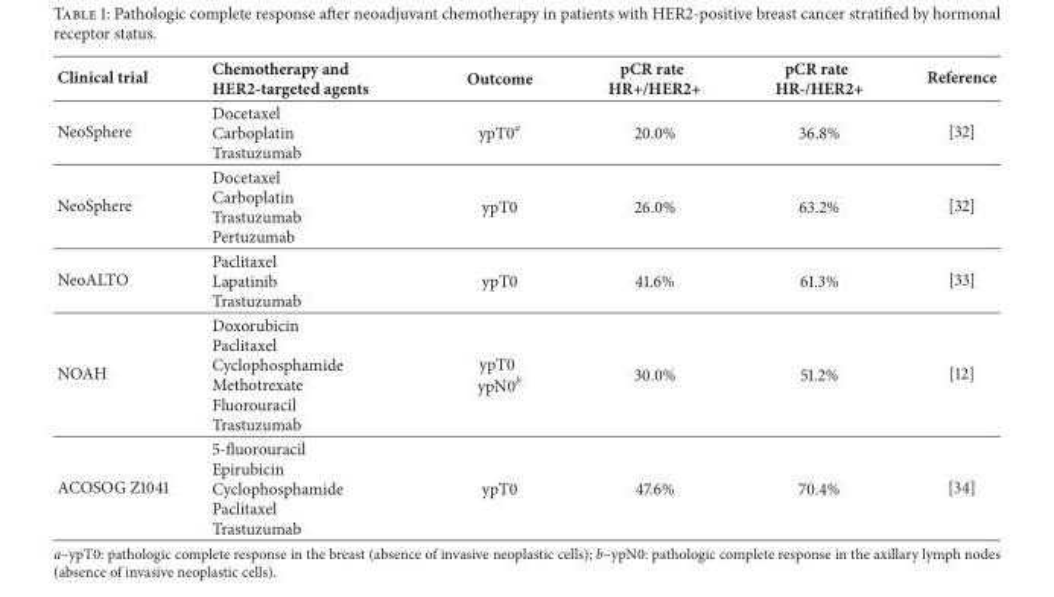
<table><thead><tr><td>Clinical trial</td><td>Chemotherapy and HER2-targeted agents</td><td>Outcome</td><td>pCR rate HR+/HER2+</td><td>pCR rate HR-/HER2+</td><td>Reference</td></tr></thead><tbody><tr><td>NeoSphere</td><td>Docetaxel Carboplatin Trastuzumab</td><td>ypT0<sup>a</sup></td><td>20.0%</td><td>36.8%</td><td>[32]</td></tr><tr><td>NeoSphere</td><td>Docetaxel Carboplatin Trastuzumab Pertuzumab</td><td>ypT0</td><td>26.0%</td><td>63.2%</td><td>[32]</td></tr><tr><td>NeoALTO</td><td>Paclitaxel Lapatinib Trastuzumab</td><td>ypT0</td><td>41.6%</td><td>61.3%</td><td>[33]</td></tr><tr><td>NOAH</td><td>Doxorubicin Paclitaxel Cyclophosphamide Methotrexate Fluorouracil Trastuzumab</td><td>ypT0 ypN0<sup>b</sup></td><td>30.0%</td><td>51.2%</td><td>[12]</td></tr><tr><td>ACOSOG Z1041</td><td>5-fluorouracil Epirubicin Cyclophosphamide Paclitaxel Trastuzumab</td><td>ypT0</td><td>47.6%</td><td>70.4%</td><td>[34]</td></tr></tbody></table>